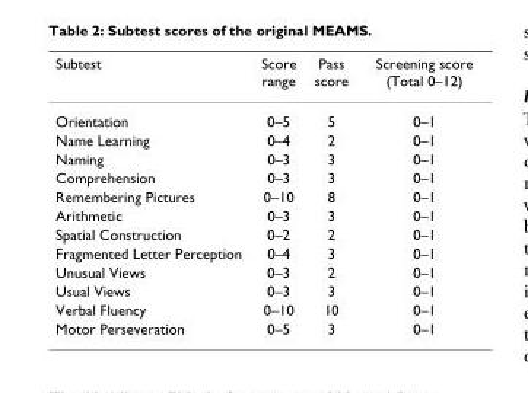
<table><thead><tr><td>Subtest</td><td>Score range</td><td>Pass score</td><td>Screening score (Total 0–12)</td></tr></thead><tbody><tr><td>Orientation</td><td>0–5</td><td>5</td><td>0–1</td></tr><tr><td>Name Learning</td><td>0–4</td><td>2</td><td>0–1</td></tr><tr><td>Naming</td><td>0–3</td><td>3</td><td>0–1</td></tr><tr><td>Comprehension</td><td>0–3</td><td>3</td><td>0–1</td></tr><tr><td>Remembering Pictures</td><td>0–10</td><td>8</td><td>0–1</td></tr><tr><td>Arithmetic</td><td>0–3</td><td>3</td><td>0–1</td></tr><tr><td>Spatial Construction</td><td>0–2</td><td>2</td><td>0–1</td></tr><tr><td>Fragmented Letter Perception</td><td>0–4</td><td>3</td><td>0–1</td></tr><tr><td>Unusual Views</td><td>0–3</td><td>2</td><td>0–1</td></tr><tr><td>Usual Views</td><td>0–3</td><td>3</td><td>0–1</td></tr><tr><td>Verbal Fluency</td><td>0–10</td><td>10</td><td>0–1</td></tr><tr><td>Motor Perseveration</td><td>0–5</td><td>3</td><td>0–1</td></tr></tbody></table>